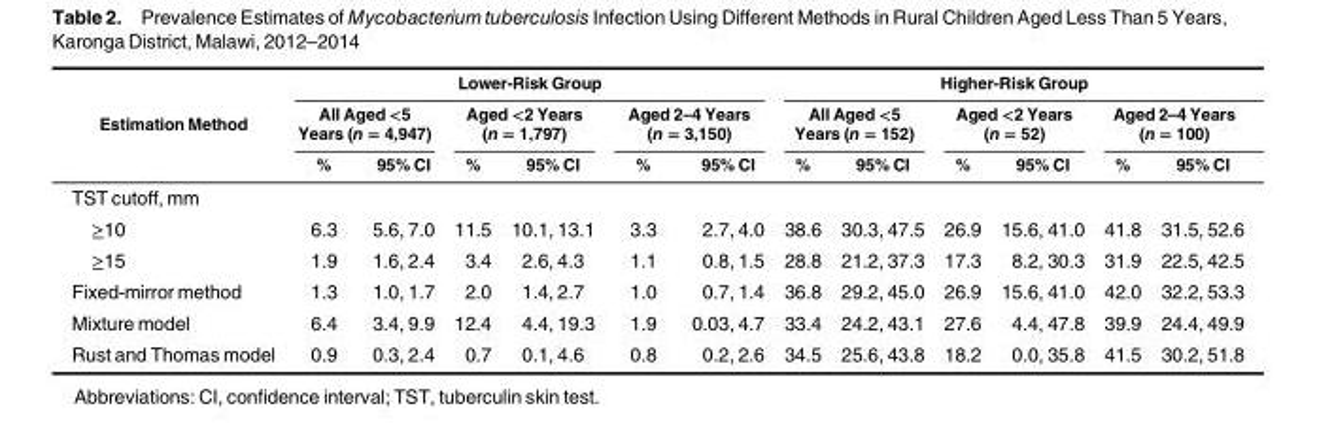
<table><thead><tr><td rowspan="3">Estimation Method</td><td colspan="6">Lower-Risk Group</td><td colspan="6">Higher-Risk Group</td></tr><tr><td colspan="2">All Aged &lt;5 Years (n = 4,947)</td><td colspan="2">Aged &lt;2 Years (n = 1,797)</td><td colspan="2">Aged 2–4 Years (n = 3,150)</td><td colspan="2">All Aged &lt;5 Years (n = 152)</td><td colspan="2">Aged &lt;2 Years (n = 52)</td><td colspan="2">Aged 2–4 Years (n = 100)</td></tr><tr><td>%</td><td>95% CI</td><td>%</td><td>95% CI</td><td>%</td><td>95% CI</td><td>%</td><td>95% CI</td><td>%</td><td>95% CI</td><td>%</td><td>95% CI</td></tr></thead><tbody><tr><td colspan="13">TST cutoff, mm</td></tr><tr><td>≥10</td><td>6.3</td><td>5.6, 7.0</td><td>11.5</td><td>10.1, 13.1</td><td>3.3</td><td>2.7, 4.0</td><td>38.6</td><td>30.3, 47.5</td><td>26.9</td><td>15.6, 41.0</td><td>41.8</td><td>31.5, 52.6</td></tr><tr><td>≥15</td><td>1.9</td><td>1.6, 2.4</td><td>3.4</td><td>2.6, 4.3</td><td>1.1</td><td>0.8, 1.5</td><td>28.8</td><td>21.2, 37.3</td><td>17.3</td><td>8.2, 30.3</td><td>31.9</td><td>22.5, 42.5</td></tr><tr><td>Fixed-mirror method</td><td>1.3</td><td>1.0, 1.7</td><td>2.0</td><td>1.4, 2.7</td><td>1.0</td><td>0.7, 1.4</td><td>36.8</td><td>29.2, 45.0</td><td>26.9</td><td>15.6, 41.0</td><td>42.0</td><td>32.2, 53.3</td></tr><tr><td>Mixture model</td><td>6.4</td><td>3.4, 9.9</td><td>12.4</td><td>4.4, 19.3</td><td>1.9</td><td>0.03, 4.7</td><td>33.4</td><td>24.2, 43.1</td><td>27.6</td><td>4.4, 47.8</td><td>39.9</td><td>24.4, 49.9</td></tr><tr><td>Rust and Thomas model</td><td>0.9</td><td>0.3, 2.4</td><td>0.7</td><td>0.1, 4.6</td><td>0.8</td><td>0.2, 2.6</td><td>34.5</td><td>25.6, 43.8</td><td>18.2</td><td>0.0, 35.8</td><td>41.5</td><td>30.2, 51.8</td></tr></tbody></table>